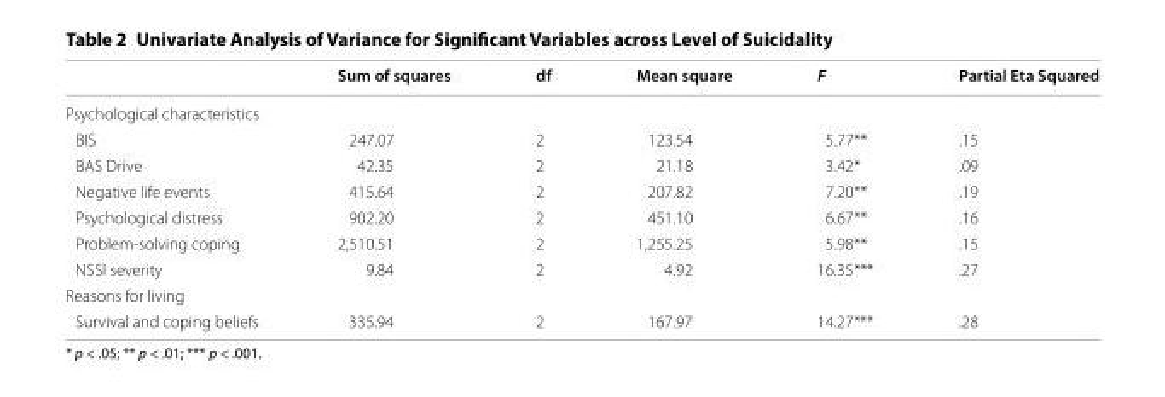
<table><thead><tr><td></td><td>Sum of squares</td><td>df</td><td>Mean square</td><td>F</td><td>Partial Eta Squared</td></tr></thead><tbody><tr><td colspan="6">Psychological characteristics</td></tr><tr><td>BIS</td><td>247.07</td><td>2</td><td>123.54</td><td>5.77**</td><td>.15</td></tr><tr><td>BAS Drive</td><td>42.35</td><td>2</td><td>21.18</td><td>3.42*</td><td>.09</td></tr><tr><td>Negative life events</td><td>415.64</td><td>2</td><td>207.82</td><td>7.20**</td><td>.19</td></tr><tr><td>Psychological distress</td><td>902.20</td><td>2</td><td>451.10</td><td>6.67**</td><td>.16</td></tr><tr><td>Problem-solving coping</td><td>2,510.51</td><td>2</td><td>1,255.25</td><td>5.98**</td><td>.15</td></tr><tr><td>NSSI severity</td><td>9.84</td><td>2</td><td>4.92</td><td>16.35***</td><td>.27</td></tr><tr><td colspan="6">Reasons for living</td></tr><tr><td>Survival and coping beliefs</td><td>335.94</td><td>2</td><td>167.97</td><td>14.27***</td><td>.28</td></tr></tbody></table>